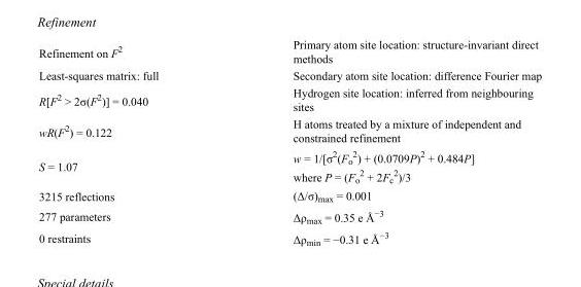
<table><tbody><tr><td>Refinement on F<sup>2</sup></td><td>Primary atom site location: structure-invariant direct methods</td></tr><tr><td>Least-squares matrix: full</td><td>Secondary atom site location: difference Fourier map</td></tr><tr><td>R[F<sup>2</sup> &gt; 2σ(F<sup>2</sup>)] = 0.040</td><td>Hydrogen site location: inferred from neighbouring sites</td></tr><tr><td>wR(F<sup>2</sup>) = 0.122</td><td>H atoms treated by a mixture of independent and constrained refinement</td></tr><tr><td>S = 1.07</td><td>w = 1/[σ<sup>2</sup>(F<sub>o</sub> <sup>2</sup>) + (0.0709P)<sup>2</sup> + 0.484P] where P = (F<sub>o</sub> <sup>2</sup> + 2F<sub>c</sub> <sup>2</sup>)/3</td></tr><tr><td>3215 reflections</td><td>(Δ/σ)<sub>max</sub> = 0.001</td></tr><tr><td>277 parameters</td><td>Δρ<sub>max</sub> = 0.35 e Å<sup>−3</sup></td></tr><tr><td>0 restraints</td><td>Δρ<sub>min</sub> = −0.31 e Å<sup>−3</sup></td></tr></tbody></table>